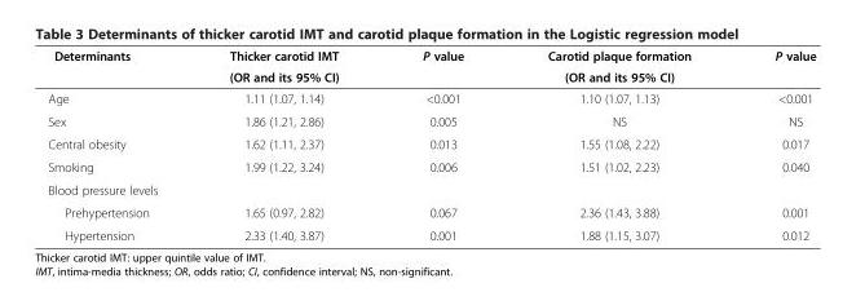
<table><thead><tr><td rowspan="2">Determinants</td><td rowspan="2">Thicker carotid IMT (OR and its 95% CI)</td><td rowspan="2">P value</td><td rowspan="2">Carotid plaque formation (OR and its 95% CI)</td><td rowspan="2">P value</td></tr><tr></tr></thead><tbody><tr><td>Age</td><td>1.11 (1.07, 1.14)</td><td>&lt;0.001</td><td>1.10 (1.07, 1.13)</td><td>&lt;0.001</td></tr><tr><td>Sex</td><td>1.86 (1.21, 2.86)</td><td>0.005</td><td>NS</td><td>NS</td></tr><tr><td>Central obesity</td><td>1.62 (1.11, 2.37)</td><td>0.013</td><td>1.55 (1.08, 2.22)</td><td>0.017</td></tr><tr><td>Smoking</td><td>1.99 (1.22, 3.24)</td><td>0.006</td><td>1.51 (1.02, 2.23)</td><td>0.040</td></tr><tr><td colspan="5">Blood pressure levels</td></tr><tr><td>Prehypertension</td><td>1.65 (0.97, 2.82)</td><td>0.067</td><td>2.36 (1.43, 3.88)</td><td>0.001</td></tr><tr><td>Hypertension</td><td>2.33 (1.40, 3.87)</td><td>0.001</td><td>1.88 (1.15, 3.07)</td><td>0.012</td></tr></tbody></table>